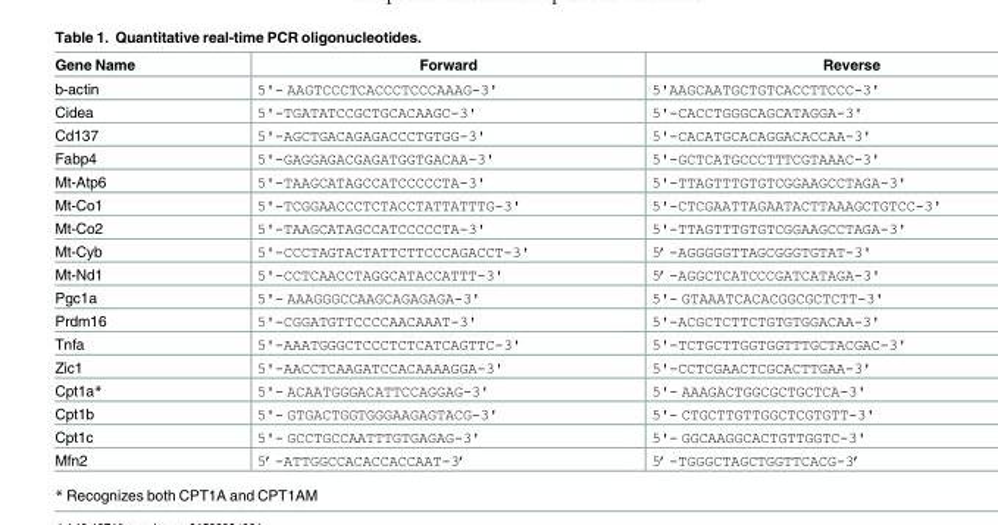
<table><thead><tr><td>Gene Name</td><td>Forward</td><td>Reverse</td></tr></thead><tbody><tr><td>b-actin</td><td>5&#x27;- AAGTCCCTCACCCTCCCAAAG-3&#x27;</td><td>5&#x27;AAGCAATGCTGTCACCTTCCC-3&#x27;</td></tr><tr><td>Cidea</td><td>5&#x27;-TGATATCCGCTGCACAAGC-3&#x27;</td><td>5&#x27;-CACCTGGGCAGCATAGGA-3&#x27;</td></tr><tr><td>Cd137</td><td>5&#x27;-AGCTGACAGAGACCCTGTGG-3&#x27;</td><td>5&#x27;-CACATGCACAGGACACCAA-3&#x27;</td></tr><tr><td>Fabp4</td><td>5&#x27;-GAGGAGACGAGATGGTGACAA-3&#x27;</td><td>5&#x27;-GCTCATGCCCTTTCGTAAAC-3&#x27;</td></tr><tr><td>Mt-Atp6</td><td>5&#x27;-TAAGCATAGCCATCCCCCTA-3&#x27;</td><td>5&#x27;-TTAGTTTGTGTCGGAAGCCTAGA-3&#x27;</td></tr><tr><td>Mt-Co1</td><td>5&#x27;-TCGGAACCCTCTACCTATTATTTG-3&#x27;</td><td>5&#x27;-CTCGAATTAGAATACTTAAAGCTGTCC-3&#x27;</td></tr><tr><td>Mt-Co2</td><td>5&#x27;-TAAGCATAGCCATCCCCCTA-3&#x27;</td><td>5&#x27;-TTAGTTTGTGTCGGAAGCCTAGA-3&#x27;</td></tr><tr><td>Mt-Cyb</td><td>5&#x27;-CCCTAGTACTATTCTTCCCAGACCT-3&#x27;</td><td>5’-AGGGGGTTAGCGGGTGTAT-3&#x27;</td></tr><tr><td>Mt-Nd1</td><td>5&#x27;-CCTCAACCTAGGCATACCATTT-3&#x27;</td><td>5’-AGGCTCATCCCGATCATAGA-3&#x27;</td></tr><tr><td>Pgc1a</td><td>5&#x27;- AAAGGGCCAAGCAGAGAGA-3&#x27;</td><td>5&#x27;- GTAAATCACACGGCGCTCTT-3&#x27;</td></tr><tr><td>Prdm16</td><td>5&#x27;-CGGATGTTCCCCAACAAAT-3&#x27;</td><td>5&#x27;-ACGCTCTTCTGTGTGGACAA-3&#x27;</td></tr><tr><td>Tnfa</td><td>5&#x27;-AAATGGGCTCCCTCTCATCAGTTC-3&#x27;</td><td>5&#x27;-TCTGCTTGGTGGTTTGCTACGAC-3&#x27;</td></tr><tr><td>Zic1</td><td>5&#x27;-AACCTCAAGATCCACAAAAGGA-3&#x27;</td><td>5&#x27;-CCTCGAACTCGCACTTGAA-3&#x27;</td></tr><tr><td>Cpt1a*</td><td>5&#x27;- ACAATGGGACATTCCAGGAG-3&#x27;</td><td>5&#x27;- AAAGACTGGCGCTGCTCA-3&#x27;</td></tr><tr><td>Cpt1b</td><td>5&#x27;- GTGACTGGTGGGAAGAGTACG-3&#x27;</td><td>5&#x27;- CTGCTTGTTGGCTCGTGTT-3&#x27;</td></tr><tr><td>Cpt1c</td><td>5&#x27;- GCCTGCCAATTTGTGAGAG-3&#x27;</td><td>5&#x27;- GGCAAGGCACTGTTGGTC-3&#x27;</td></tr><tr><td>Mfn2</td><td>5’-ATTGGCCACACCACCAAT-3’</td><td>5’-TGGGCTAGCTGGTTCACG-3’</td></tr></tbody></table>